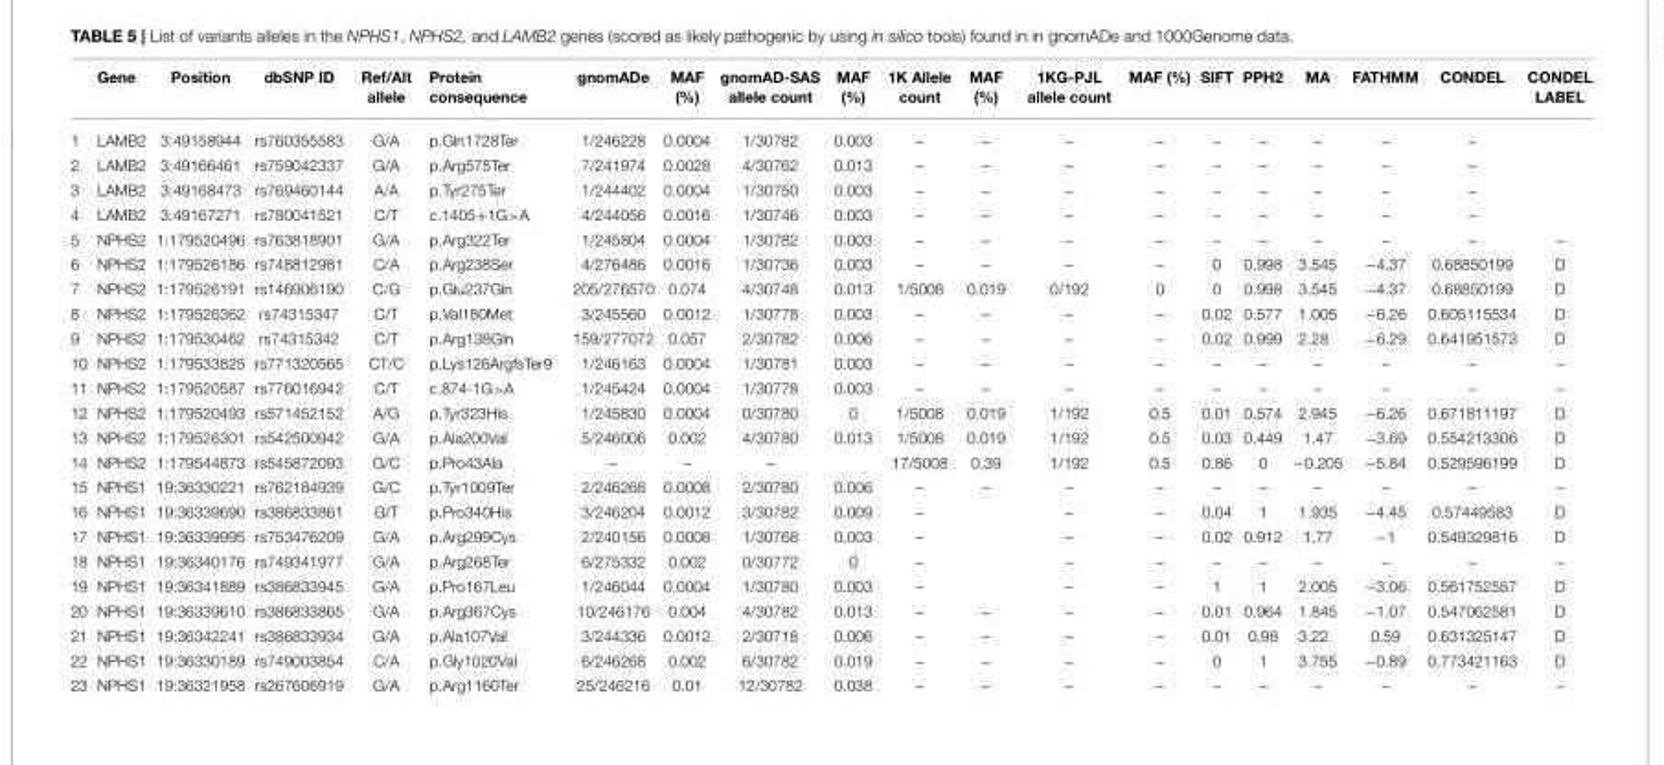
<table><thead><tr><td></td><td>Gene</td><td>Position</td><td>dbSNP ID</td><td>Ref/Alt allele</td><td>Protein consequence</td><td>gnomADe</td><td>MAF (%)</td><td>gnomAD-SAS allele count</td><td>MAF (%)</td><td>1K Allele count</td><td>MAF (%)</td><td>1KG-PJL allele count</td><td>MAF (%)</td><td>SIFT</td><td>PPH2</td><td>MA</td><td>FATHMM</td><td>CONDEL</td><td>CONDEL LABEL</td></tr></thead><tbody><tr><td>1</td><td>LAMB2</td><td>3:49158944</td><td>rs760355583</td><td>G/A</td><td>p.Gln1728Ter</td><td>1/246228</td><td>0.0004</td><td>1/30782</td><td>0.003</td><td>–</td><td>–</td><td>–</td><td>–</td><td>–</td><td>–</td><td>–</td><td>–</td><td>–</td><td></td></tr><tr><td>2</td><td>LAMB2</td><td>3:49166461</td><td>rs759042337</td><td>G/A</td><td>p.Arg575Ter</td><td>7/241974</td><td>0.0028</td><td>4/30762</td><td>0.013</td><td>–</td><td>–</td><td>–</td><td>–</td><td>–</td><td>–</td><td>–</td><td>–</td><td>–</td><td></td></tr><tr><td>3</td><td>LAMB2</td><td>3:49168473</td><td>rs769460144</td><td>A/A</td><td>p.Tyr275Ter</td><td>1/244402</td><td>0.0004</td><td>1/30750</td><td>0.003</td><td>–</td><td>–</td><td>–</td><td>–</td><td>–</td><td>–</td><td>–</td><td>–</td><td>–</td><td></td></tr><tr><td>4</td><td>LAMB2</td><td>3:49167271</td><td>rs780041521</td><td>C/T</td><td>c.1405+1G&gt;A</td><td>4/244056</td><td>0.0016</td><td>1/30746</td><td>0.003</td><td>–</td><td>–</td><td>–</td><td>–</td><td>–</td><td>–</td><td>–</td><td>–</td><td>–</td><td></td></tr><tr><td>5</td><td>NPHS2</td><td>1:179520496</td><td>rs763818901</td><td>G/A</td><td>p.Arg322Ter</td><td>1/245804</td><td>0.0004</td><td>1/30782</td><td>0.003</td><td>–</td><td>–</td><td>–</td><td>–</td><td>–</td><td>–</td><td>–</td><td>–</td><td>–</td><td>–</td></tr><tr><td>6</td><td>NPHS2</td><td>1:179526186</td><td>rs748812981</td><td>C/A</td><td>p.Arg238Ser</td><td>4/276486</td><td>0.0016</td><td>1/30736</td><td>0.003</td><td>–</td><td>–</td><td>–</td><td>–</td><td>0</td><td>0.998</td><td>3.545</td><td>−4.37</td><td>0.68850199</td><td>D</td></tr><tr><td>7</td><td>NPHS2</td><td>1:179526191</td><td>rs146906190</td><td>C/G</td><td>p.Glu237Gln</td><td>205/276570</td><td>0.074</td><td>4/30748</td><td>0.013</td><td>1/5008</td><td>0.019</td><td>0/192</td><td>0</td><td>0</td><td>0.998</td><td>3.545</td><td>−4.37</td><td>0.68850199</td><td>D</td></tr><tr><td>8</td><td>NPHS2</td><td>1:179526362</td><td>rs74315347</td><td>C/T</td><td>p.Val180Met</td><td>3/245560</td><td>0.0012</td><td>1/30778</td><td>0.003</td><td>–</td><td>–</td><td>–</td><td>–</td><td>0.02</td><td>0.577</td><td>1.005</td><td>−6.26</td><td>0.605115534</td><td>D</td></tr><tr><td>9</td><td>NPHS2</td><td>1:179530462</td><td>rs74315342</td><td>C/T</td><td>p.Arg138Gln</td><td>159/277072</td><td>0.057</td><td>2/30782</td><td>0.006</td><td>–</td><td>–</td><td>–</td><td>–</td><td>0.02</td><td>0.999</td><td>2.28</td><td>−6.29</td><td>0.641951573</td><td>D</td></tr><tr><td>10</td><td>NPHS2</td><td>1:179533825</td><td>rs771320565</td><td>CT/C</td><td>p.Lys126ArgfsTer9</td><td>1/246163</td><td>0.0004</td><td>1/30781</td><td>0.003</td><td>–</td><td>–</td><td>–</td><td>–</td><td>–</td><td>–</td><td>–</td><td>–</td><td>–</td><td>–</td></tr><tr><td>11</td><td>NPHS2</td><td>1:179520587</td><td>rs776016942</td><td>C/T</td><td>c.874-1G&gt;A</td><td>1/245424</td><td>0.0004</td><td>1/30778</td><td>0.003</td><td>–</td><td>–</td><td>–</td><td>–</td><td>–</td><td>–</td><td>–</td><td>–</td><td>–</td><td>–</td></tr><tr><td>12</td><td>NPHS2</td><td>1:179520493</td><td>rs571452152</td><td>A/G</td><td>p.Tyr323His</td><td>1/245830</td><td>0.0004</td><td>0/30780</td><td>0</td><td>1/5008</td><td>0.019</td><td>1/192</td><td>0.5</td><td>0.01</td><td>0.574</td><td>2.945</td><td>−6.26</td><td>0.671811197</td><td>D</td></tr><tr><td>13</td><td>NPHS2</td><td>1:179526301</td><td>rs542500942</td><td>G/A</td><td>p.Ala200Val</td><td>5/246006</td><td>0.002</td><td>4/30780</td><td>0.013</td><td>1/5008</td><td>0.019</td><td>1/192</td><td>0.5</td><td>0.03</td><td>0.449</td><td>1.47</td><td>−3.69</td><td>0.554213306</td><td>D</td></tr><tr><td>14</td><td>NPHS2</td><td>1:179544873</td><td>rs545872093</td><td>G/C</td><td>p.Pro43Ala</td><td>–</td><td>–</td><td>–</td><td></td><td>17/5008</td><td>0.39</td><td>1/192</td><td>0.5</td><td>0.86</td><td>0</td><td>−0.205</td><td>−5.84</td><td>0.529596199</td><td>D</td></tr><tr><td>15</td><td>NPHS1</td><td>19:36330221</td><td>rs762184939</td><td>G/C</td><td>p.Tyr1009Ter</td><td>2/246268</td><td>0.0008</td><td>2/30780</td><td>0.006</td><td>–</td><td>–</td><td>–</td><td>–</td><td>–</td><td>–</td><td>–</td><td>–</td><td>–</td><td>–</td></tr><tr><td>16</td><td>NPHS1</td><td>19:36339690</td><td>rs386833861</td><td>G/T</td><td>p.Pro340His</td><td>3/246204</td><td>0.0012</td><td>3/30782</td><td>0.009</td><td>–</td><td></td><td>–</td><td>–</td><td>0.04</td><td>1</td><td>1.935</td><td>−4.45</td><td>0.57449583</td><td>D</td></tr><tr><td>17</td><td>NPHS1</td><td>19:36339995</td><td>rs753476209</td><td>G/A</td><td>p.Arg299Cys</td><td>2/240156</td><td>0.0008</td><td>1/30768</td><td>0.003</td><td>–</td><td></td><td>–</td><td>–</td><td>0.02</td><td>0.912</td><td>1.77</td><td>−1</td><td>0.549329816</td><td>D</td></tr><tr><td>18</td><td>NPHS1</td><td>19:36340176</td><td>rs749341977</td><td>G/A</td><td>p.Arg268Ter</td><td>6/275332</td><td>0.002</td><td>0/30772</td><td>0</td><td>–</td><td></td><td>–</td><td>–</td><td>–</td><td>–</td><td>–</td><td>–</td><td>–</td><td>–</td></tr><tr><td>19</td><td>NPHS1</td><td>19:36341889</td><td>rs386833945</td><td>G/A</td><td>p.Pro167Leu</td><td>1/246044</td><td>0.0004</td><td>1/30780</td><td>0.003</td><td>–</td><td></td><td>–</td><td>–</td><td>1</td><td>1</td><td>2.005</td><td>−3.06</td><td>0.561752557</td><td>D</td></tr><tr><td>20</td><td>NPHS1</td><td>19:36339610</td><td>rs386833865</td><td>G/A</td><td>p.Arg367Cys</td><td>10/246176</td><td>0.004</td><td>4/30782</td><td>0.013</td><td>–</td><td>–</td><td>–</td><td>–</td><td>0.01</td><td>0.964</td><td>1.845</td><td>−1.07</td><td>0.547062581</td><td>D</td></tr><tr><td>21</td><td>NPHS1</td><td>19:36342241</td><td>rs386833934</td><td>G/A</td><td>p.Ala107Val</td><td>3/244336</td><td>0.0012</td><td>2/30718</td><td>0.006</td><td>–</td><td>–</td><td>–</td><td>–</td><td>0.01</td><td>0.98</td><td>3.22</td><td>0.59</td><td>0.631325147</td><td>D</td></tr><tr><td>22</td><td>NPHS1</td><td>19:36330189</td><td>rs749003854</td><td>C/A</td><td>p.Gly1020Val</td><td>6/246268</td><td>0.002</td><td>6/30782</td><td>0.019</td><td>–</td><td>–</td><td>–</td><td>–</td><td>0</td><td>1</td><td>3.755</td><td>−0.89</td><td>0.773421163</td><td>D</td></tr><tr><td>23</td><td>NPHS1</td><td>19:36321958</td><td>rs267606919</td><td>G/A</td><td>p.Arg1160Ter</td><td>25/246216</td><td>0.01</td><td>12/30782</td><td>0.038</td><td>–</td><td>–</td><td>–</td><td>–</td><td>–</td><td>–</td><td>–</td><td>–</td><td>–</td><td>–</td></tr></tbody></table>